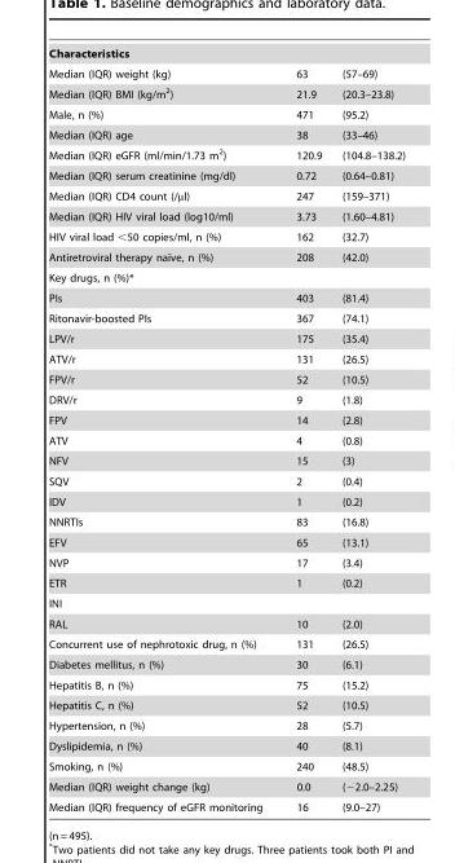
<table><tbody><tr><td colspan="3">Characteristics</td></tr><tr><td>Median (IQR) weight (kg)</td><td>63</td><td>(57–69)</td></tr><tr><td>Median (IQR) BMI (kg/m<sup>2</sup>)</td><td>21.9</td><td>(20.3–23.8)</td></tr><tr><td>Male, n (%)</td><td>471</td><td>(95.2)</td></tr><tr><td>Median (IQR) age</td><td>38</td><td>(33–46)</td></tr><tr><td>Median (IQR) eGFR (ml/min/1.73 m<sup>2</sup>)</td><td>120.9</td><td>(104.8–138.2)</td></tr><tr><td>Median (IQR) serum creatinine (mg/dl)</td><td>0.72</td><td>(0.64–0.81)</td></tr><tr><td>Median (IQR) CD4 count (/µl)</td><td>247</td><td>(159–371)</td></tr><tr><td>Median (IQR) HIV viral load (log10/ml)</td><td>3.73</td><td>(1.60–4.81)</td></tr><tr><td>HIV viral load &lt;50 copies/ml, n (%)</td><td>162</td><td>(32.7)</td></tr><tr><td>Antiretroviral therapy naı¨ve, n (%)</td><td>208</td><td>(42.0)</td></tr><tr><td colspan="3">Key drugs, n (%)*</td></tr><tr><td>PIs</td><td>403</td><td>(81.4)</td></tr><tr><td>Ritonavir-boosted PIs</td><td>367</td><td>(74.1)</td></tr><tr><td>LPV/r</td><td>175</td><td>(35.4)</td></tr><tr><td>ATV/r</td><td>131</td><td>(26.5)</td></tr><tr><td>FPV/r</td><td>52</td><td>(10.5)</td></tr><tr><td>DRV/r</td><td>9</td><td>(1.8)</td></tr><tr><td>FPV</td><td>14</td><td>(2.8)</td></tr><tr><td>ATV</td><td>4</td><td>(0.8)</td></tr><tr><td>NFV</td><td>15</td><td>(3)</td></tr><tr><td>SQV</td><td>2</td><td>(0.4)</td></tr><tr><td>IDV</td><td>1</td><td>(0.2)</td></tr><tr><td>NNRTIs</td><td>83</td><td>(16.8)</td></tr><tr><td>EFV</td><td>65</td><td>(13.1)</td></tr><tr><td>NVP</td><td>17</td><td>(3.4)</td></tr><tr><td>ETR</td><td>1</td><td>(0.2)</td></tr><tr><td colspan="3">INI</td></tr><tr><td>RAL</td><td>10</td><td>(2.0)</td></tr><tr><td>Concurrent use of nephrotoxic drug, n (%)</td><td>131</td><td>(26.5)</td></tr><tr><td>Diabetes mellitus, n (%)</td><td>30</td><td>(6.1)</td></tr><tr><td>Hepatitis B, n (%)</td><td>75</td><td>(15.2)</td></tr><tr><td>Hepatitis C, n (%)</td><td>52</td><td>(10.5)</td></tr><tr><td>Hypertension, n (%)</td><td>28</td><td>(5.7)</td></tr><tr><td>Dyslipidemia, n (%)</td><td>40</td><td>(8.1)</td></tr><tr><td>Smoking, n (%)</td><td>240</td><td>(48.5)</td></tr><tr><td>Median (IQR) weight change (kg)</td><td>0.0</td><td>(−2.0–2.25)</td></tr><tr><td>Median (IQR) frequency of eGFR monitoring</td><td>16</td><td>(9.0–27)</td></tr></tbody></table>